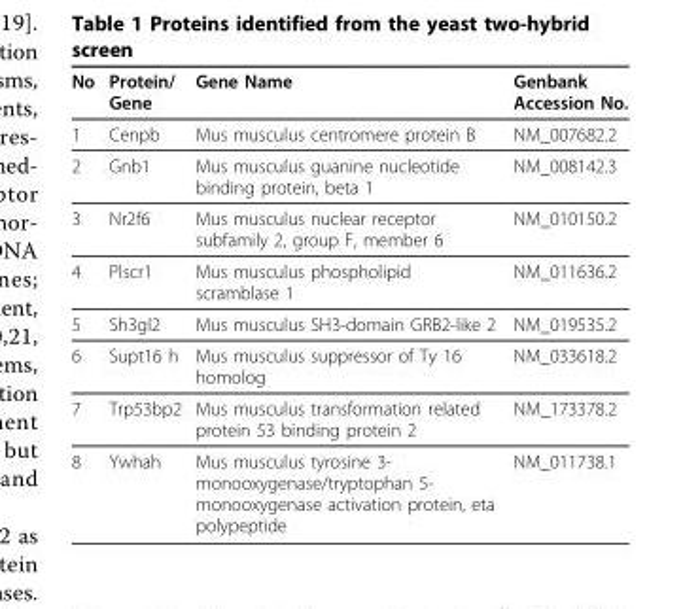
<table><thead><tr><td>No</td><td>Protein/ Gene</td><td>Gene Name</td><td>Genbank Accession No.</td></tr></thead><tbody><tr><td>1</td><td>Cenpb</td><td>Mus musculus centromere protein B</td><td>NM_007682.2</td></tr><tr><td>2</td><td>Gnb1</td><td>Mus musculus guanine nucleotide binding protein, beta 1</td><td>NM_008142.3</td></tr><tr><td>3</td><td>Nr2f6</td><td>Mus musculus nuclear receptor subfamily 2, group F, member 6</td><td>NM_010150.2</td></tr><tr><td>4</td><td>Plscr1</td><td>Mus musculus phospholipid scramblase 1</td><td>NM_011636.2</td></tr><tr><td>5</td><td>Sh3gl2</td><td>Mus musculus SH3-domain GRB2-like 2</td><td>NM_019535.2</td></tr><tr><td>6</td><td>Supt16 h</td><td>Mus musculus suppressor of Ty 16 homolog</td><td>NM_033618.2</td></tr><tr><td>7</td><td>Trp53bp2</td><td>Mus musculus transformation related protein 53 binding protein 2</td><td>NM_173378.2</td></tr><tr><td>8</td><td>Ywhah</td><td>Mus musculus tyrosine 3- monooxygenase/tryptophan 5- monooxygenase activation protein, eta polypeptide</td><td>NM_011738.1</td></tr></tbody></table>